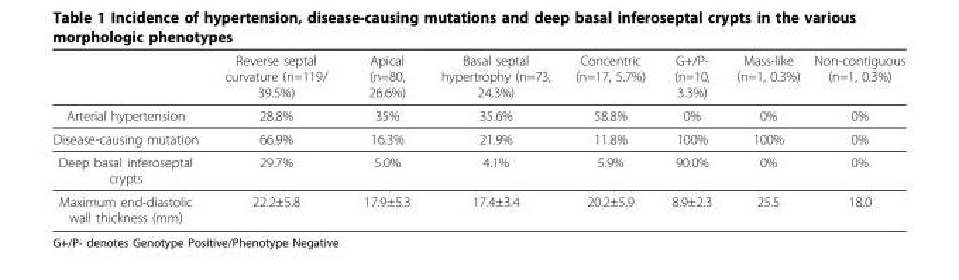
<table><thead><tr><td></td><td>Reverse septal curvature (n=119/ 39.5%)</td><td>Apical (n=80, 26.6%)</td><td>Basal septal hypertrophy (n=73, 24.3%)</td><td>Concentric (n=17, 5.7%)</td><td>G+/P- (n=10, 3.3%)</td><td>Mass-like (n=1, 0.3%)</td><td>Non-contiguous (n=1, 0.3%)</td></tr></thead><tbody><tr><td>Arterial hypertension</td><td>28.8%</td><td>35%</td><td>35.6%</td><td>58.8%</td><td>0%</td><td>0%</td><td>0%</td></tr><tr><td>Disease-causing mutation</td><td>66.9%</td><td>16.3%</td><td>21.9%</td><td>11.8%</td><td>100%</td><td>100%</td><td>0%</td></tr><tr><td>Deep basal inferoseptal crypts</td><td>29.7%</td><td>5.0%</td><td>4.1%</td><td>5.9%</td><td>90.0%</td><td>0%</td><td>0%</td></tr><tr><td>Maximum end-diastolic wall thickness (mm)</td><td>22.2±5.8</td><td>17.9±5.3</td><td>17.4±3.4</td><td>20.2±5.9</td><td>8.9±2.3</td><td>25.5</td><td>18.0</td></tr></tbody></table>